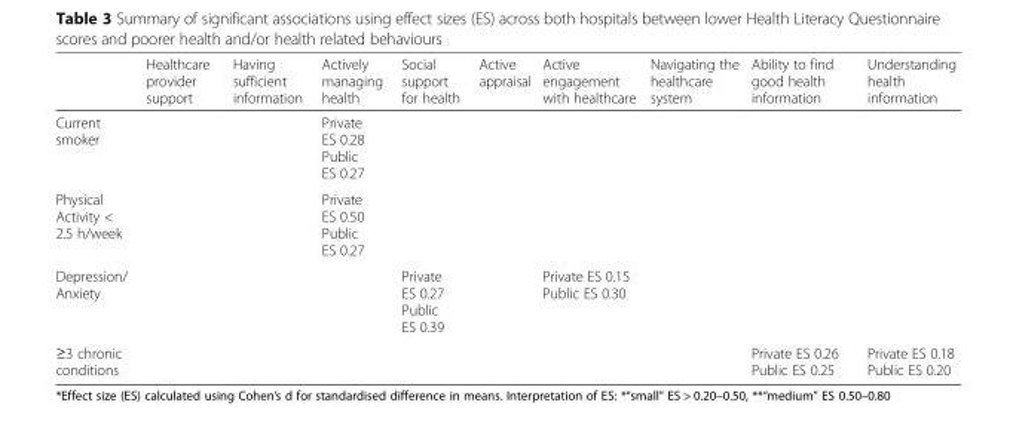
<table><thead><tr><td></td><td>Healthcare provider support</td><td>Having sufficient information</td><td>Actively managing health</td><td>Social support for health</td><td>Active appraisal</td><td>Active engagement with healthcare</td><td>Navigating the healthcare system</td><td>Ability to find good health information</td><td>Understanding health information</td></tr></thead><tbody><tr><td>Current smoker</td><td></td><td></td><td>Private ES 0.28 Public ES 0.27</td><td></td><td></td><td></td><td></td><td></td><td></td></tr><tr><td>Physical Activity &lt; 2.5 h/week</td><td></td><td></td><td>Private ES 0.50 Public ES 0.27</td><td></td><td></td><td></td><td></td><td></td><td></td></tr><tr><td>Depression/ Anxiety</td><td></td><td></td><td></td><td>Private ES 0.27 Public ES 0.39</td><td></td><td>Private ES 0.15 Public ES 0.30</td><td></td><td></td><td></td></tr><tr><td>≥3 chronic conditions</td><td></td><td></td><td></td><td></td><td></td><td></td><td></td><td>Private ES 0.26 Public ES 0.25</td><td>Private ES 0.18 Public ES 0.20</td></tr></tbody></table>